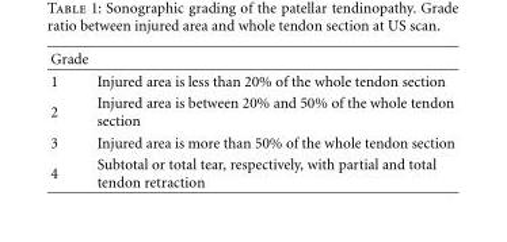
<table><thead><tr><td>Grade</td><td></td></tr></thead><tbody><tr><td>1</td><td>Injured area is less than 20% of the whole tendon section</td></tr><tr><td>2</td><td>Injured area is between 20% and 50% of the whole tendon section</td></tr><tr><td>3</td><td>Injured area is more than 50% of the whole tendon section</td></tr><tr><td>4</td><td>Subtotal or total tear, respectively, with partial and total tendon retraction</td></tr></tbody></table>